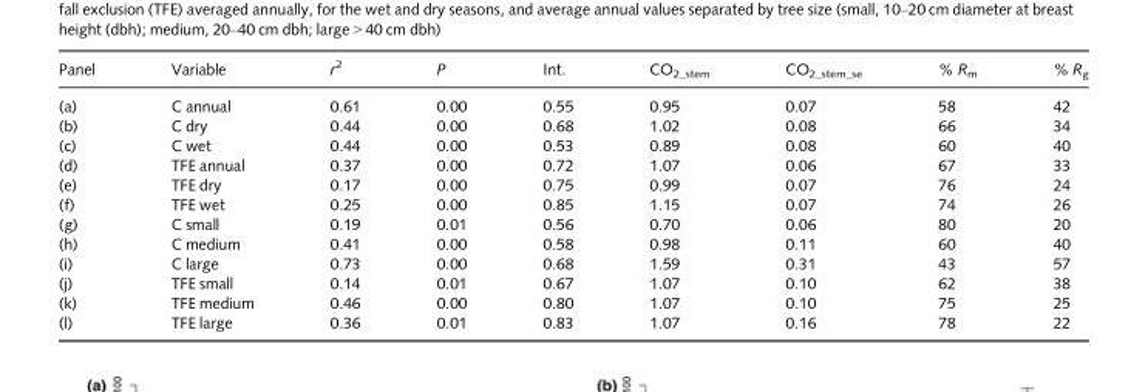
<table><thead><tr><td>Panel</td><td>Variable</td><td>r<sup>2</sup></td><td>P</td><td>Int.</td><td>CO<sub>2_stem</sub></td><td>CO<sub>2_stem_se</sub></td><td>% R<sub>m</sub></td><td>% R<sub>g</sub></td></tr></thead><tbody><tr><td>(a)</td><td>C annual</td><td>0.61</td><td>0.00</td><td>0.55</td><td>0.95</td><td>0.07</td><td>58</td><td>42</td></tr><tr><td>(b)</td><td>C dry</td><td>0.44</td><td>0.00</td><td>0.68</td><td>1.02</td><td>0.08</td><td>66</td><td>34</td></tr><tr><td>(c)</td><td>C wet</td><td>0.44</td><td>0.00</td><td>0.53</td><td>0.89</td><td>0.08</td><td>60</td><td>40</td></tr><tr><td>(d)</td><td>TFE annual</td><td>0.37</td><td>0.00</td><td>0.72</td><td>1.07</td><td>0.06</td><td>67</td><td>33</td></tr><tr><td>(e)</td><td>TFE dry</td><td>0.17</td><td>0.00</td><td>0.75</td><td>0.99</td><td>0.07</td><td>76</td><td>24</td></tr><tr><td>(f)</td><td>TFE wet</td><td>0.25</td><td>0.00</td><td>0.85</td><td>1.15</td><td>0.07</td><td>74</td><td>26</td></tr><tr><td>(g)</td><td>C small</td><td>0.19</td><td>0.01</td><td>0.56</td><td>0.70</td><td>0.06</td><td>80</td><td>20</td></tr><tr><td>(h)</td><td>C medium</td><td>0.41</td><td>0.00</td><td>0.58</td><td>0.98</td><td>0.11</td><td>60</td><td>40</td></tr><tr><td>(i)</td><td>C large</td><td>0.73</td><td>0.00</td><td>0.68</td><td>1.59</td><td>0.31</td><td>43</td><td>57</td></tr><tr><td>(j)</td><td>TFE small</td><td>0.14</td><td>0.01</td><td>0.67</td><td>1.07</td><td>0.10</td><td>62</td><td>38</td></tr><tr><td>(k)</td><td>TFE medium</td><td>0.46</td><td>0.00</td><td>0.80</td><td>1.07</td><td>0.10</td><td>75</td><td>25</td></tr><tr><td>(l)</td><td>TFE large</td><td>0.36</td><td>0.01</td><td>0.83</td><td>1.07</td><td>0.16</td><td>78</td><td>22</td></tr></tbody></table>